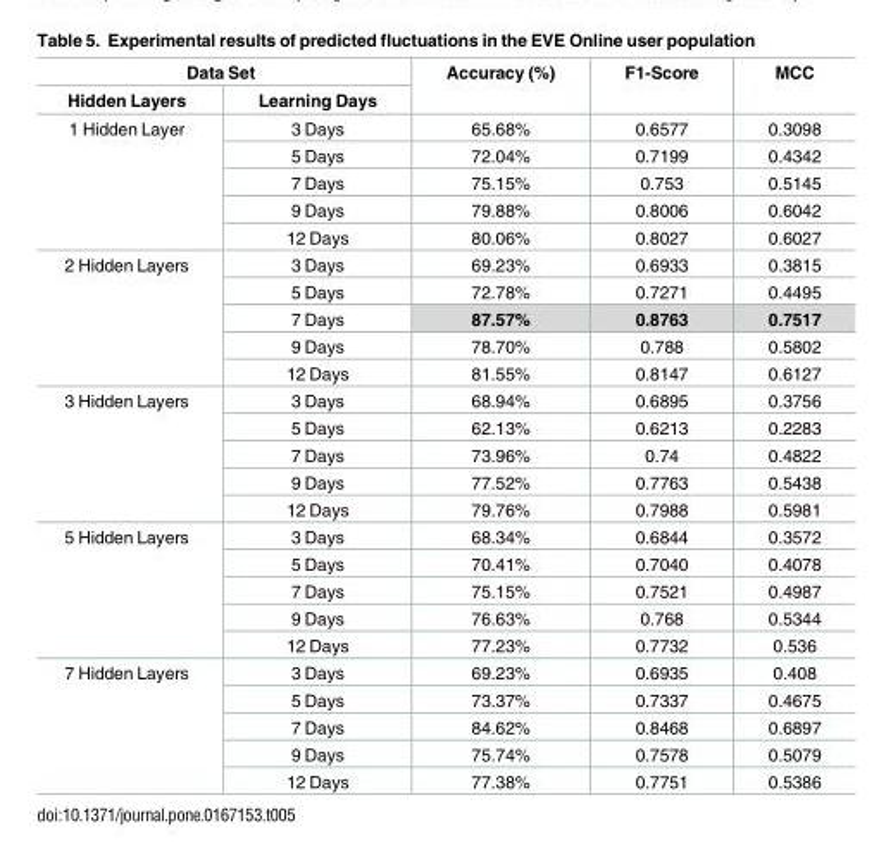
<table><thead><tr><td colspan="2">Data Set</td><td rowspan="2">Accuracy (%)</td><td rowspan="2">F1-Score</td><td rowspan="2">MCC</td></tr><tr><td>Hidden Layers</td><td>Learning Days</td></tr></thead><tbody><tr><td rowspan="5">1 Hidden Layer</td><td>3 Days</td><td>65.68%</td><td>0.6577</td><td>0.3098</td></tr><tr><td>5 Days</td><td>72.04%</td><td>0.7199</td><td>0.4342</td></tr><tr><td>7 Days</td><td>75.15%</td><td>0.753</td><td>0.5145</td></tr><tr><td>9 Days</td><td>79.88%</td><td>0.8006</td><td>0.6042</td></tr><tr><td>12 Days</td><td>80.06%</td><td>0.8027</td><td>0.6027</td></tr><tr><td rowspan="5">2 Hidden Layers</td><td>3 Days</td><td>69.23%</td><td>0.6933</td><td>0.3815</td></tr><tr><td>5 Days</td><td>72.78%</td><td>0.7271</td><td>0.4495</td></tr><tr><td>7 Days</td><td>87.57%</td><td>0.8763</td><td>0.7517</td></tr><tr><td>9 Days</td><td>78.70%</td><td>0.788</td><td>0.5802</td></tr><tr><td>12 Days</td><td>81.55%</td><td>0.8147</td><td>0.6127</td></tr><tr><td rowspan="5">3 Hidden Layers</td><td>3 Days</td><td>68.94%</td><td>0.6895</td><td>0.3756</td></tr><tr><td>5 Days</td><td>62.13%</td><td>0.6213</td><td>0.2283</td></tr><tr><td>7 Days</td><td>73.96%</td><td>0.74</td><td>0.4822</td></tr><tr><td>9 Days</td><td>77.52%</td><td>0.7763</td><td>0.5438</td></tr><tr><td>12 Days</td><td>79.76%</td><td>0.7988</td><td>0.5981</td></tr><tr><td rowspan="5">5 Hidden Layers</td><td>3 Days</td><td>68.34%</td><td>0.6844</td><td>0.3572</td></tr><tr><td>5 Days</td><td>70.41%</td><td>0.7040</td><td>0.4078</td></tr><tr><td>7 Days</td><td>75.15%</td><td>0.7521</td><td>0.4987</td></tr><tr><td>9 Days</td><td>76.63%</td><td>0.768</td><td>0.5344</td></tr><tr><td>12 Days</td><td>77.23%</td><td>0.7732</td><td>0.536</td></tr><tr><td rowspan="5">7 Hidden Layers</td><td>3 Days</td><td>69.23%</td><td>0.6935</td><td>0.408</td></tr><tr><td>5 Days</td><td>73.37%</td><td>0.7337</td><td>0.4675</td></tr><tr><td>7 Days</td><td>84.62%</td><td>0.8468</td><td>0.6897</td></tr><tr><td>9 Days</td><td>75.74%</td><td>0.7578</td><td>0.5079</td></tr><tr><td>12 Days</td><td>77.38%</td><td>0.7751</td><td>0.5386</td></tr></tbody></table>